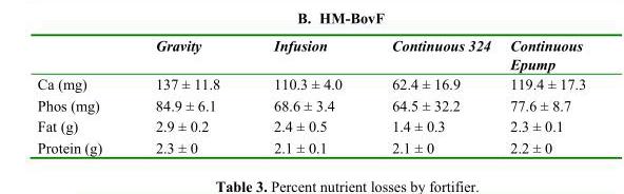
<table><thead><tr><td></td><td>Gravity</td><td>Infusion</td><td>Continuous 324</td><td>Continuous Epump</td></tr></thead><tbody><tr><td>Ca (mg)</td><td>137 ± 11.8</td><td>110.3 ± 4.0</td><td>62.4 ± 16.9</td><td>119.4 ± 17.3</td></tr><tr><td>Phos (mg)</td><td>84.9 ± 6.1</td><td>68.6 ± 3.4</td><td>64.5 ± 32.2</td><td>77.6 ± 8.7</td></tr><tr><td>Fat (g)</td><td>2.9 ± 0.2</td><td>2.4 ± 0.5</td><td>1.4 ± 0.3</td><td>2.3 ± 0.1</td></tr><tr><td>Protein (g)</td><td>2.3 ± 0</td><td>2.1 ± 0.1</td><td>2.1 ± 0</td><td>2.2 ± 0</td></tr></tbody></table>